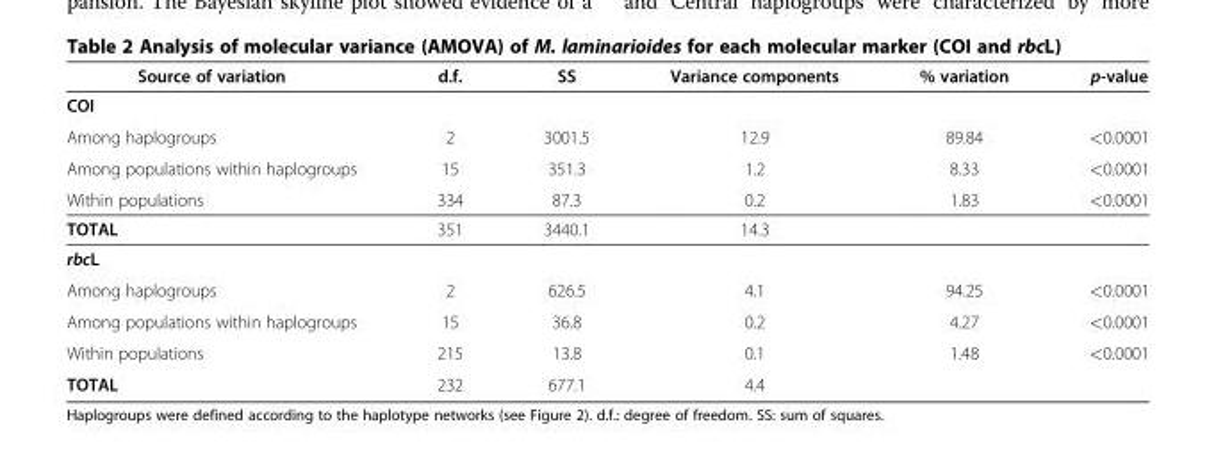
<table><thead><tr><td>Source of variation</td><td>d.f.</td><td>SS</td><td>Variance components</td><td>% variation</td><td>p-value</td></tr></thead><tbody><tr><td colspan="6">COI</td></tr><tr><td>Among haplogroups</td><td>2</td><td>3001.5</td><td>12.9</td><td>89.84</td><td>&lt;0.0001</td></tr><tr><td>Among populations within haplogroups</td><td>15</td><td>351.3</td><td>1.2</td><td>8.33</td><td>&lt;0.0001</td></tr><tr><td>Within populations</td><td>334</td><td>87.3</td><td>0.2</td><td>1.83</td><td>&lt;0.0001</td></tr><tr><td>TOTAL</td><td>351</td><td>3440.1</td><td>14.3</td><td></td><td></td></tr><tr><td colspan="6">rbcL</td></tr><tr><td>Among haplogroups</td><td>2</td><td>626.5</td><td>4.1</td><td>94.25</td><td>&lt;0.0001</td></tr><tr><td>Among populations within haplogroups</td><td>15</td><td>36.8</td><td>0.2</td><td>4.27</td><td>&lt;0.0001</td></tr><tr><td>Within populations</td><td>215</td><td>13.8</td><td>0.1</td><td>1.48</td><td>&lt;0.0001</td></tr><tr><td>TOTAL</td><td>232</td><td>677.1</td><td>4.4</td><td></td><td></td></tr></tbody></table>